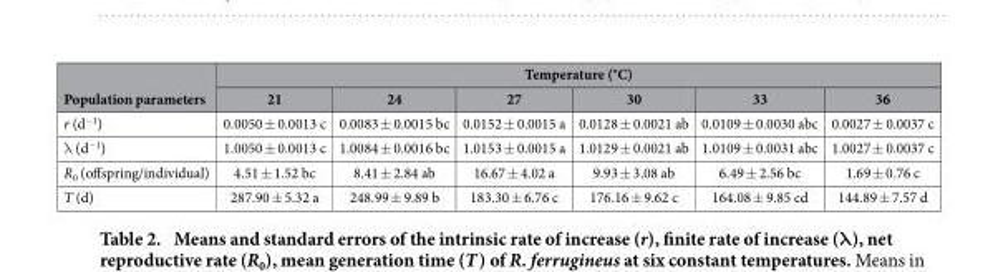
<table><thead><tr><td rowspan="2">Population parameters</td><td colspan="6">Temperature (°C)</td></tr><tr><td>21</td><td>24</td><td>27</td><td>30</td><td>33</td><td>36</td></tr></thead><tbody><tr><td>r (d<sup>−1</sup>)</td><td>0.0050 ± 0.0013 c</td><td>0.0083 ± 0.0015 bc</td><td>0.0152 ± 0.0015 a</td><td>0.0128 ± 0.0021 ab</td><td>0.0109 ± 0.0030 abc</td><td>0.0027 ± 0.0037 c</td></tr><tr><td>λ (d<sup>−1</sup>)</td><td>1.0050 ± 0.0013 c</td><td>1.0084 ± 0.0016 bc</td><td>1.0153 ± 0.0015 a</td><td>1.0129 ± 0.0021 ab</td><td>1.0109 ± 0.0031 abc</td><td>1.0027 ± 0.0037 c</td></tr><tr><td>R<sub>0</sub> (offspring/individual)</td><td>4.51 ± 1.52 bc</td><td>8.41 ± 2.84 ab</td><td>16.67 ± 4.02 a</td><td>9.93 ± 3.08 ab</td><td>6.49 ± 2.56 bc</td><td>1.69 ± 0.76 c</td></tr><tr><td>T (d)</td><td>287.90 ± 5.32 a</td><td>248.99 ± 9.89 b</td><td>183.30 ± 6.76 c</td><td>176.16 ± 9.62 c</td><td>164.08 ± 9.85 cd</td><td>144.89 ± 7.57 d</td></tr></tbody></table>